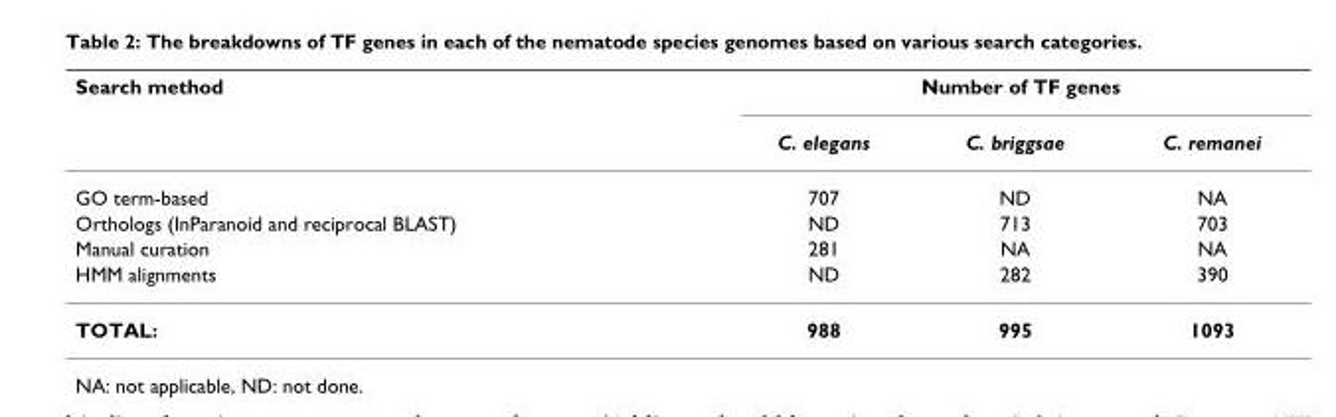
<table><thead><tr><td rowspan="2">Search method</td><td colspan="3">Number of TF genes</td></tr><tr><td>C. elegans</td><td>C. briggsae</td><td>C. remanei</td></tr></thead><tbody><tr><td>GO term-based</td><td>707</td><td>ND</td><td>NA</td></tr><tr><td>Orthologs (InParanoid and reciprocal BLAST)</td><td>ND</td><td>713</td><td>703</td></tr><tr><td>Manual curation</td><td>281</td><td>NA</td><td>NA</td></tr><tr><td>HMM alignments</td><td>ND</td><td>282</td><td>390</td></tr><tr><td>TOTAL:</td><td>988</td><td>995</td><td>1093</td></tr></tbody></table>